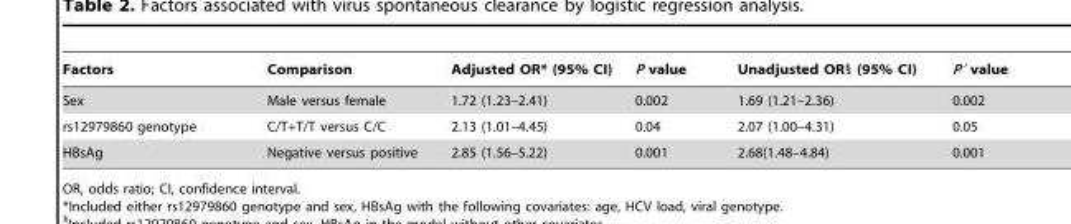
<table><thead><tr><td>Factors</td><td>Comparison</td><td>Adjusted OR* (95% CI)</td><td>P value</td><td>Unadjusted OR§ (95% CI)</td><td>P′ value</td></tr></thead><tbody><tr><td>Sex</td><td>Male versus female</td><td>1.72 (1.23–2.41)</td><td>0.002</td><td>1.69 (1.21–2.36)</td><td>0.002</td></tr><tr><td>rs12979860 genotype</td><td>C/T+T/T versus C/C</td><td>2.13 (1.01–4.45)</td><td>0.04</td><td>2.07 (1.00–4.31)</td><td>0.05</td></tr><tr><td>HBsAg</td><td>Negative versus positive</td><td>2.85 (1.56–5.22)</td><td>0.001</td><td>2.68(1.48–4.84)</td><td>0.001</td></tr></tbody></table>